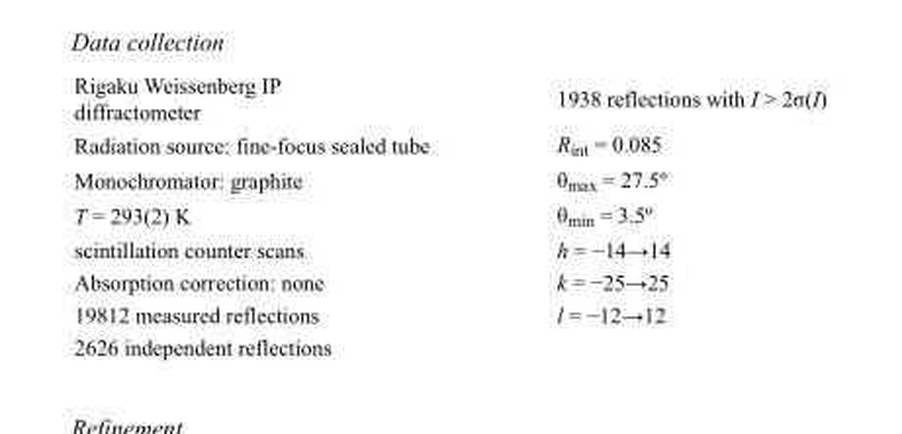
<table><tbody><tr><td>Rigaku Weissenberg IP diffractometer</td><td>1938 reflections with I &gt; 2σ(I)</td></tr><tr><td>Radiation source: fine-focus sealed tube</td><td>R<sub>int</sub> = 0.085</td></tr><tr><td>Monochromator: graphite</td><td>θ<sub>max</sub> = 27.5º</td></tr><tr><td>T = 293(2) K</td><td>θ<sub>min</sub> = 3.5º</td></tr><tr><td>scintillation counter scans</td><td>h = −14→14</td></tr><tr><td>Absorption correction: none</td><td>k = −25→25</td></tr><tr><td>19812 measured reflections</td><td>l = −12→12</td></tr><tr><td>2626 independent reflections</td><td></td></tr></tbody></table>